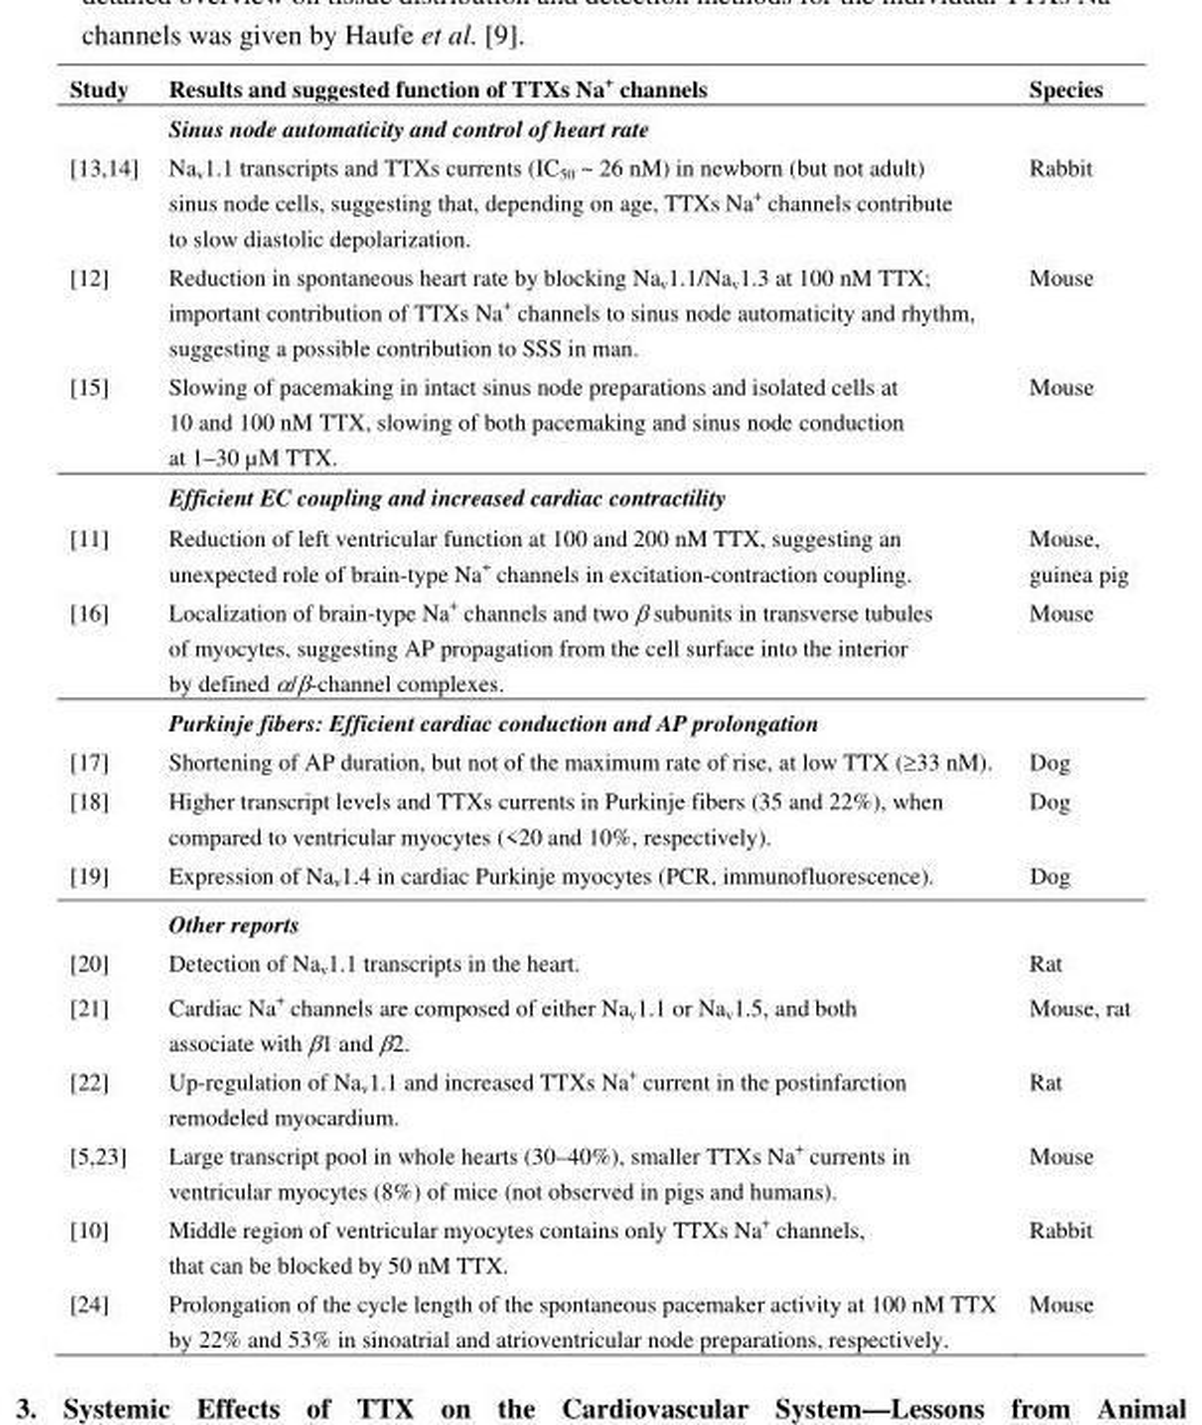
<table><thead><tr><td>Study</td><td>Results and suggested function of TTXs Na<sup>+</sup> channels</td><td>Species</td></tr></thead><tbody><tr><td></td><td>Sinus node automaticity and control of heart rate</td><td></td></tr><tr><td>[13,14]</td><td>Na<sub>v</sub>1.1 transcripts and TTXs currents (IC<sub>50</sub> ~ 26 nM) in newborn (but not adult) sinus node cells, suggesting that, depending on age, TTXs Na<sup>+</sup> channels contribute to slow diastolic depolarization.</td><td>Rabbit</td></tr><tr><td>[12]</td><td>Reduction in spontaneous heart rate by blocking Na<sub>v</sub>1.1/Na<sub>v</sub>1.3 at 100 nM TTX; important contribution of TTXs Na<sup>+</sup> channels to sinus node automaticity and rhythm, suggesting a possible contribution to SSS in man.</td><td>Mouse</td></tr><tr><td rowspan="2">[15]</td><td>Slowing of pacemaking in intact sinus node preparations and isolated cells at 10 and 100 nM TTX, slowing of both pacemaking and sinus node conduction at 1–30 µM TTX.</td><td>Mouse</td></tr><tr><td>Efficient EC coupling and increased cardiac contractility</td><td></td></tr><tr><td>[11]</td><td>Reduction of left ventricular function at 100 and 200 nM TTX, suggesting an unexpected role of brain-type Na<sup>+</sup> channels in excitation-contraction coupling.</td><td>Mouse, guinea pig</td></tr><tr><td rowspan="2">[16]</td><td>Localization of brain-type Na<sup>+</sup> channels and two β subunits in transverse tubules of myocytes, suggesting AP propagation from the cell surface into the interior by defined α/β-channel complexes.</td><td>Mouse</td></tr><tr><td>Purkinje fibers: Efficient cardiac conduction and AP prolongation</td><td></td></tr><tr><td>[17]</td><td>Shortening of AP duration, but not of the maximum rate of rise, at low TTX (≥33 nM).</td><td>Dog</td></tr><tr><td>[18]</td><td>Higher transcript levels and TTXs currents in Purkinje fibers (35 and 22%), when compared to ventricular myocytes (&lt;20 and 10%, respectively).</td><td>Dog</td></tr><tr><td rowspan="2">[19]</td><td>Expression of Na<sub>v</sub>1.4 in cardiac Purkinje myocytes (PCR, immunofluorescence).</td><td>Dog</td></tr><tr><td>Other reports</td><td></td></tr><tr><td>[20]</td><td>Detection of Na<sub>v</sub>1.1 transcripts in the heart.</td><td>Rat</td></tr><tr><td>[21]</td><td>Cardiac Na<sup>+</sup> channels are composed of either Na<sub>v</sub>1.1 or Na<sub>v</sub>1.5, and both associate with β1 and β2.</td><td>Mouse, rat</td></tr><tr><td>[22]</td><td>Up-regulation of Na<sub>v</sub>1.1 and increased TTXs Na<sup>+</sup> current in the postinfarction remodeled myocardium.</td><td>Rat</td></tr><tr><td>[5,23]</td><td>Large transcript pool in whole hearts (30–40%), smaller TTXs Na<sup>+</sup> currents in ventricular myocytes (8%) of mice (not observed in pigs and humans).</td><td>Mouse</td></tr><tr><td>[10]</td><td>Middle region of ventricular myocytes contains only TTXs Na<sup>+</sup> channels, that can be blocked by 50 nM TTX.</td><td>Rabbit</td></tr><tr><td>[24]</td><td>Prolongation of the cycle length of the spontaneous pacemaker activity at 100 nM TTX by 22% and 53% in sinoatrial and atrioventricular node preparations, respectively.</td><td>Mouse</td></tr></tbody></table>